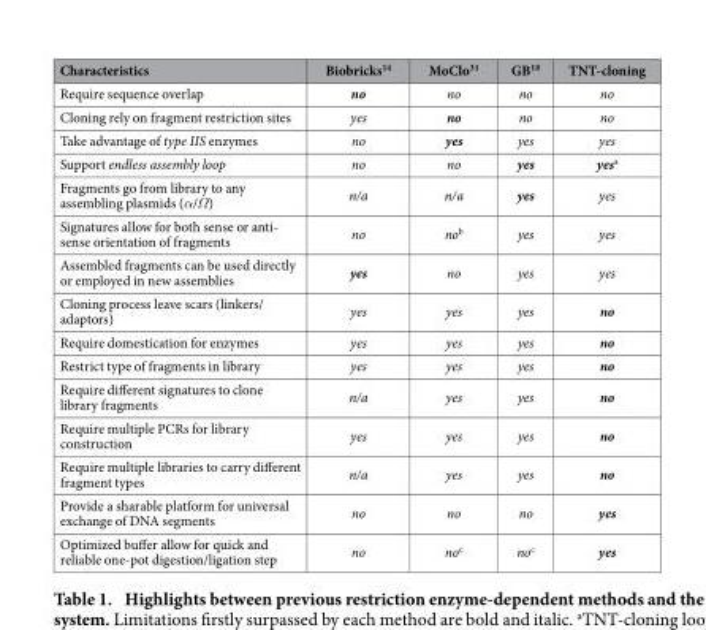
<table><thead><tr><td>Characteristics</td><td>Biobricks<sup>14</sup></td><td>MoClo<sup>31</sup></td><td>GB<sup>18</sup></td><td>TNT-cloning</td></tr></thead><tbody><tr><td>Require sequence overlap</td><td>no</td><td>no</td><td>no</td><td>no</td></tr><tr><td>Cloning rely on fragment restriction sites</td><td>yes</td><td>no</td><td>no</td><td>no</td></tr><tr><td>Take advantage of type IIS enzymes</td><td>no</td><td>yes</td><td>yes</td><td>yes</td></tr><tr><td>Support endless assembly loop</td><td>no</td><td>no</td><td>yes</td><td>yesa</td></tr><tr><td>Fragments go from library to any assembling plasmids (α/Ω)</td><td>n/a</td><td>n/a</td><td>yes</td><td>yes</td></tr><tr><td>Signatures allow for both sense or anti- sense orientation of fragments</td><td>no</td><td>nob</td><td>yes</td><td>yes</td></tr><tr><td>Assembled fragments can be used directly or employed in new assemblies</td><td>yes</td><td>no</td><td>yes</td><td>yes</td></tr><tr><td>Cloning process leave scars (linkers/ adaptors)</td><td>yes</td><td>yes</td><td>yes</td><td>no</td></tr><tr><td>Require domestication for enzymes</td><td>yes</td><td>yes</td><td>yes</td><td>no</td></tr><tr><td>Restrict type of fragments in library</td><td>yes</td><td>yes</td><td>yes</td><td>no</td></tr><tr><td>Require different signatures to clone library fragments</td><td>n/a</td><td>yes</td><td>yes</td><td>no</td></tr><tr><td>Require multiple PCRs for library construction</td><td>yes</td><td>yes</td><td>yes</td><td>no</td></tr><tr><td>Require multiple libraries to carry different fragment types</td><td>n/a</td><td>yes</td><td>yes</td><td>no</td></tr><tr><td>Provide a sharable platform for universal exchange of DNA segments</td><td>no</td><td>no</td><td>no</td><td>yes</td></tr><tr><td>Optimized buffer allow for quick and reliable one-pot digestion/ligation step</td><td>no</td><td>noc</td><td>noc</td><td>yes</td></tr></tbody></table>